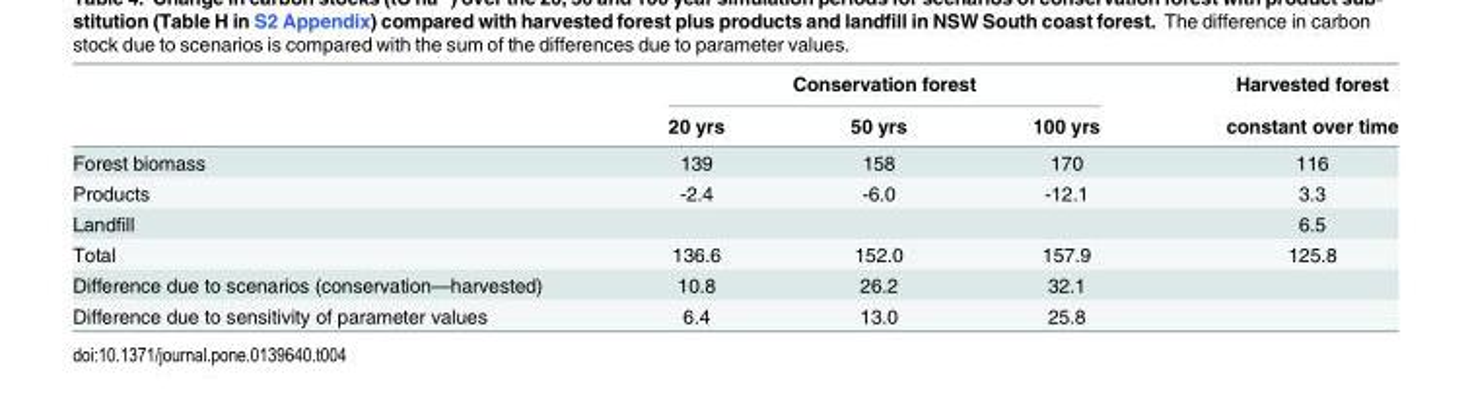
<table><thead><tr><td rowspan="2"></td><td colspan="3">Conservation forest</td><td rowspan="2">Harvested forest constant over time</td></tr><tr><td>20 yrs</td><td>50 yrs</td><td>100 yrs</td></tr></thead><tbody><tr><td>Forest biomass</td><td>139</td><td>158</td><td>170</td><td>116</td></tr><tr><td>Products</td><td>-2.4</td><td>-6.0</td><td>-12.1</td><td>3.3</td></tr><tr><td>Landfill</td><td></td><td></td><td></td><td>6.5</td></tr><tr><td>Total</td><td>136.6</td><td>152.0</td><td>157.9</td><td>125.8</td></tr><tr><td>Difference due to scenarios (conservation—harvested)</td><td>10.8</td><td>26.2</td><td>32.1</td><td></td></tr><tr><td>Difference due to sensitivity of parameter values</td><td>6.4</td><td>13.0</td><td>25.8</td><td></td></tr></tbody></table>